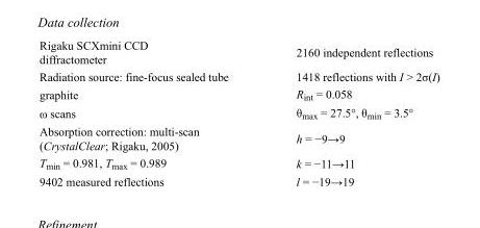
<table><tbody><tr><td>Rigaku SCXmini CCD diffractometer</td><td>2160 independent reflections</td></tr><tr><td>Radiation source: fine-focus sealed tube</td><td>1418 reflections with I &gt; 2σ(I)</td></tr><tr><td>graphite</td><td>R<sub>int</sub> = 0.058</td></tr><tr><td>ω scans</td><td>θ<sub>max</sub> = 27.5°, θ<sub>min</sub> = 3.5°</td></tr><tr><td>Absorption correction: multi-scan (CrystalClear; Rigaku, 2005)</td><td>h = −9→9</td></tr><tr><td>T<sub>min</sub> = 0.981, T<sub>max</sub> = 0.989</td><td>k = −11→11</td></tr><tr><td>9402 measured reflections</td><td>l = −19→19</td></tr></tbody></table>